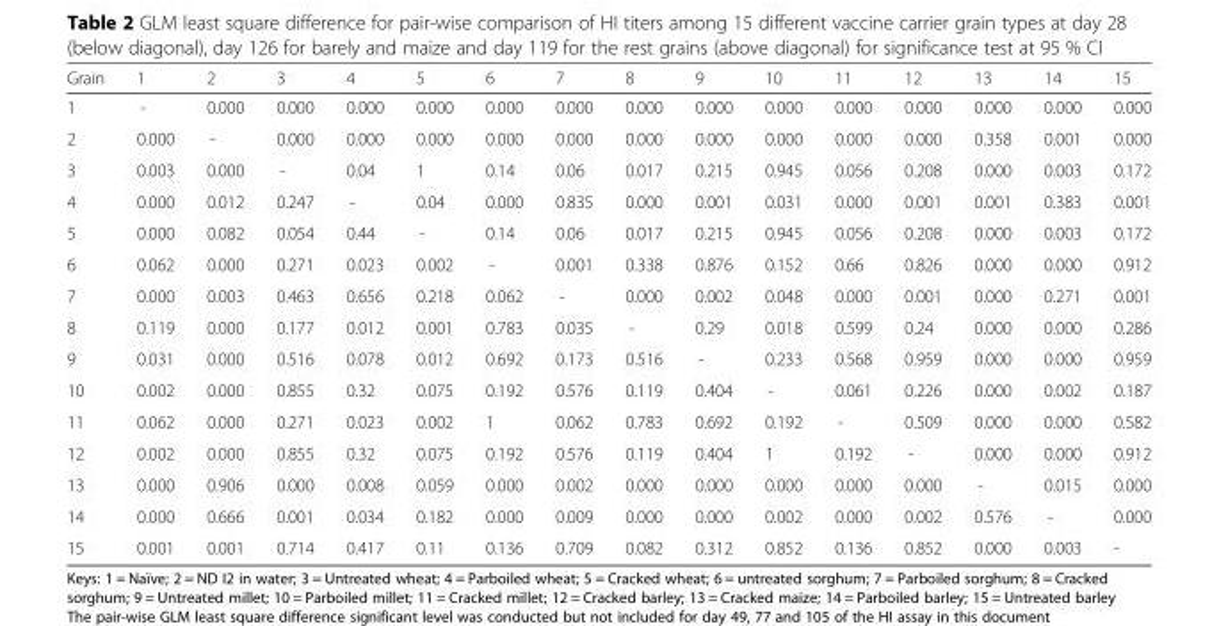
<table><thead><tr><td>Grain</td><td>1</td><td>2</td><td>3</td><td>4</td><td>5</td><td>6</td><td>7</td><td>8</td><td>9</td><td>10</td><td>11</td><td>12</td><td>13</td><td>14</td><td>15</td></tr></thead><tbody><tr><td>1</td><td>-</td><td>0.000</td><td>0.000</td><td>0.000</td><td>0.000</td><td>0.000</td><td>0.000</td><td>0.000</td><td>0.000</td><td>0.000</td><td>0.000</td><td>0.000</td><td>0.000</td><td>0.000</td><td>0.000</td></tr><tr><td>2</td><td>0.000</td><td>-</td><td>0.000</td><td>0.000</td><td>0.000</td><td>0.000</td><td>0.000</td><td>0.000</td><td>0.000</td><td>0.000</td><td>0.000</td><td>0.000</td><td>0.358</td><td>0.001</td><td>0.000</td></tr><tr><td>3</td><td>0.003</td><td>0.000</td><td>-</td><td>0.04</td><td>1</td><td>0.14</td><td>0.06</td><td>0.017</td><td>0.215</td><td>0.945</td><td>0.056</td><td>0.208</td><td>0.000</td><td>0.003</td><td>0.172</td></tr><tr><td>4</td><td>0.000</td><td>0.012</td><td>0.247</td><td>-</td><td>0.04</td><td>0.000</td><td>0.835</td><td>0.000</td><td>0.001</td><td>0.031</td><td>0.000</td><td>0.001</td><td>0.001</td><td>0.383</td><td>0.001</td></tr><tr><td>5</td><td>0.000</td><td>0.082</td><td>0.054</td><td>0.44</td><td>-</td><td>0.14</td><td>0.06</td><td>0.017</td><td>0.215</td><td>0.945</td><td>0.056</td><td>0.208</td><td>0.000</td><td>0.003</td><td>0.172</td></tr><tr><td>6</td><td>0.062</td><td>0.000</td><td>0.271</td><td>0.023</td><td>0.002</td><td>-</td><td>0.001</td><td>0.338</td><td>0.876</td><td>0.152</td><td>0.66</td><td>0.826</td><td>0.000</td><td>0.000</td><td>0.912</td></tr><tr><td>7</td><td>0.000</td><td>0.003</td><td>0.463</td><td>0.656</td><td>0.218</td><td>0.062</td><td>-</td><td>0.000</td><td>0.002</td><td>0.048</td><td>0.000</td><td>0.001</td><td>0.000</td><td>0.271</td><td>0.001</td></tr><tr><td>8</td><td>0.119</td><td>0.000</td><td>0.177</td><td>0.012</td><td>0.001</td><td>0.783</td><td>0.035</td><td>-</td><td>0.29</td><td>0.018</td><td>0.599</td><td>0.24</td><td>0.000</td><td>0.000</td><td>0.286</td></tr><tr><td>9</td><td>0.031</td><td>0.000</td><td>0.516</td><td>0.078</td><td>0.012</td><td>0.692</td><td>0.173</td><td>0.516</td><td>-</td><td>0.233</td><td>0.568</td><td>0.959</td><td>0.000</td><td>0.000</td><td>0.959</td></tr><tr><td>10</td><td>0.002</td><td>0.000</td><td>0.855</td><td>0.32</td><td>0.075</td><td>0.192</td><td>0.576</td><td>0.119</td><td>0.404</td><td>-</td><td>0.061</td><td>0.226</td><td>0.000</td><td>0.002</td><td>0.187</td></tr><tr><td>11</td><td>0.062</td><td>0.000</td><td>0.271</td><td>0.023</td><td>0.002</td><td>1</td><td>0.062</td><td>0.783</td><td>0.692</td><td>0.192</td><td>-</td><td>0.509</td><td>0.000</td><td>0.000</td><td>0.582</td></tr><tr><td>12</td><td>0.002</td><td>0.000</td><td>0.855</td><td>0.32</td><td>0.075</td><td>0.192</td><td>0.576</td><td>0.119</td><td>0.404</td><td>1</td><td>0.192</td><td>-</td><td>0.000</td><td>0.000</td><td>0.912</td></tr><tr><td>13</td><td>0.000</td><td>0.906</td><td>0.000</td><td>0.008</td><td>0.059</td><td>0.000</td><td>0.002</td><td>0.000</td><td>0.000</td><td>0.000</td><td>0.000</td><td>0.000</td><td>-</td><td>0.015</td><td>0.000</td></tr><tr><td>14</td><td>0.000</td><td>0.666</td><td>0.001</td><td>0.034</td><td>0.182</td><td>0.000</td><td>0.009</td><td>0.000</td><td>0.000</td><td>0.002</td><td>0.000</td><td>0.002</td><td>0.576</td><td>-</td><td>0.000</td></tr><tr><td>15</td><td>0.001</td><td>0.001</td><td>0.714</td><td>0.417</td><td>0.11</td><td>0.136</td><td>0.709</td><td>0.082</td><td>0.312</td><td>0.852</td><td>0.136</td><td>0.852</td><td>0.000</td><td>0.003</td><td>-</td></tr></tbody></table>